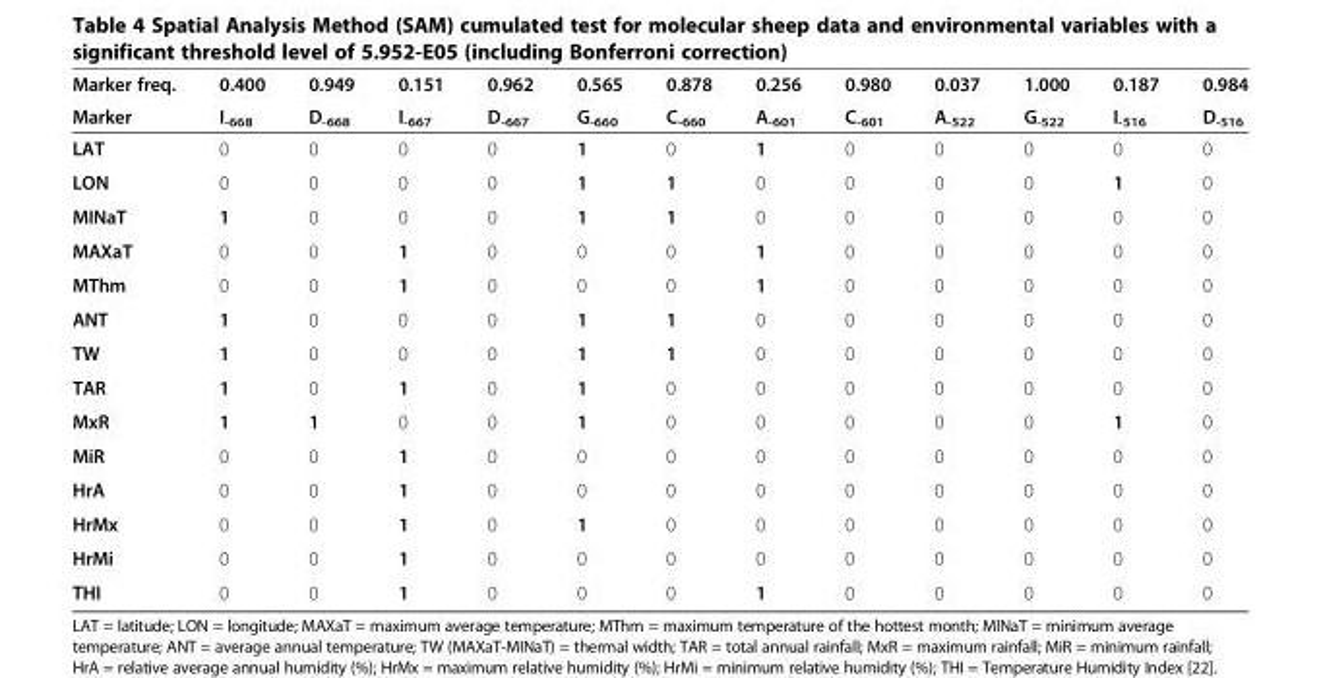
<table><thead><tr><td rowspan="2">Marker freq. Marker</td><td rowspan="2">0.400 I<sub>-668</sub></td><td rowspan="2">0.949 D<sub>-668</sub></td><td rowspan="2">0.151 I<sub>-667</sub></td><td rowspan="2">0.962 D<sub>-667</sub></td><td rowspan="2">0.565 G<sub>-660</sub></td><td rowspan="2">0.878 C<sub>-660</sub></td><td rowspan="2">0.256 A<sub>-601</sub></td><td rowspan="2">0.980 C<sub>-601</sub></td><td rowspan="2">0.037 A<sub>-522</sub></td><td rowspan="2">1.000 G<sub>-522</sub></td><td rowspan="2">0.187 I<sub>-516</sub></td><td rowspan="2">0.984 D<sub>-516</sub></td></tr><tr></tr></thead><tbody><tr><td>LAT</td><td>0</td><td>0</td><td>0</td><td>0</td><td>1</td><td>0</td><td>1</td><td>0</td><td>0</td><td>0</td><td>0</td><td>0</td></tr><tr><td>LON</td><td>0</td><td>0</td><td>0</td><td>0</td><td>1</td><td>1</td><td>0</td><td>0</td><td>0</td><td>0</td><td>1</td><td>0</td></tr><tr><td>MINaT</td><td>1</td><td>0</td><td>0</td><td>0</td><td>1</td><td>1</td><td>0</td><td>0</td><td>0</td><td>0</td><td>0</td><td>0</td></tr><tr><td>MAXaT</td><td>0</td><td>0</td><td>1</td><td>0</td><td>0</td><td>0</td><td>1</td><td>0</td><td>0</td><td>0</td><td>0</td><td>0</td></tr><tr><td>MThm</td><td>0</td><td>0</td><td>1</td><td>0</td><td>0</td><td>0</td><td>1</td><td>0</td><td>0</td><td>0</td><td>0</td><td>0</td></tr><tr><td>ANT</td><td>1</td><td>0</td><td>0</td><td>0</td><td>1</td><td>1</td><td>0</td><td>0</td><td>0</td><td>0</td><td>0</td><td>0</td></tr><tr><td>TW</td><td>1</td><td>0</td><td>0</td><td>0</td><td>1</td><td>1</td><td>0</td><td>0</td><td>0</td><td>0</td><td>0</td><td>0</td></tr><tr><td>TAR</td><td>1</td><td>0</td><td>1</td><td>0</td><td>1</td><td>0</td><td>0</td><td>0</td><td>0</td><td>0</td><td>0</td><td>0</td></tr><tr><td>MxR</td><td>1</td><td>1</td><td>0</td><td>0</td><td>1</td><td>0</td><td>0</td><td>0</td><td>0</td><td>0</td><td>1</td><td>0</td></tr><tr><td>MiR</td><td>0</td><td>0</td><td>1</td><td>0</td><td>0</td><td>0</td><td>0</td><td>0</td><td>0</td><td>0</td><td>0</td><td>0</td></tr><tr><td>HrA</td><td>0</td><td>0</td><td>1</td><td>0</td><td>0</td><td>0</td><td>0</td><td>0</td><td>0</td><td>0</td><td>0</td><td>0</td></tr><tr><td>HrMx</td><td>0</td><td>0</td><td>1</td><td>0</td><td>1</td><td>0</td><td>0</td><td>0</td><td>0</td><td>0</td><td>0</td><td>0</td></tr><tr><td>HrMi</td><td>0</td><td>0</td><td>1</td><td>0</td><td>0</td><td>0</td><td>0</td><td>0</td><td>0</td><td>0</td><td>0</td><td>0</td></tr><tr><td>THI</td><td>0</td><td>0</td><td>1</td><td>0</td><td>0</td><td>0</td><td>1</td><td>0</td><td>0</td><td>0</td><td>0</td><td>0</td></tr></tbody></table>